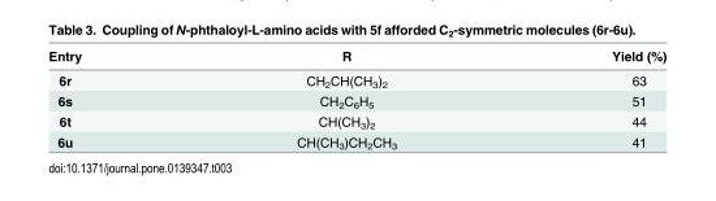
<table><thead><tr><td>Entry</td><td>R</td><td>Yield (%)</td></tr></thead><tbody><tr><td>6r</td><td>CH<sub>2</sub>CH(CH<sub>3</sub>)<sub>2</sub></td><td>63</td></tr><tr><td>6s</td><td>CH<sub>2</sub>C<sub>6</sub>H<sub>5</sub></td><td>51</td></tr><tr><td>6t</td><td>CH(CH<sub>3</sub>)<sub>2</sub></td><td>44</td></tr><tr><td>6u</td><td>CH(CH<sub>3</sub>)CH<sub>2</sub>CH<sub>3</sub></td><td>41</td></tr></tbody></table>